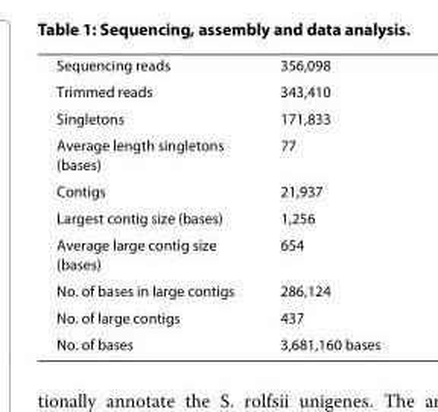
<table><tbody><tr><td>Sequencing reads</td><td>356,098</td></tr><tr><td>Trimmed reads</td><td>343,410</td></tr><tr><td>Singletons</td><td>171,833</td></tr><tr><td>Average length singletons (bases)</td><td>77</td></tr><tr><td>Contigs</td><td>21,937</td></tr><tr><td>Largest contig size (bases)</td><td>1,256</td></tr><tr><td>Average large contig size (bases)</td><td>654</td></tr><tr><td>No. of bases in large contigs</td><td>286,124</td></tr><tr><td>No. of large contigs</td><td>437</td></tr><tr><td>No. of bases</td><td>3,681,160 bases</td></tr></tbody></table>